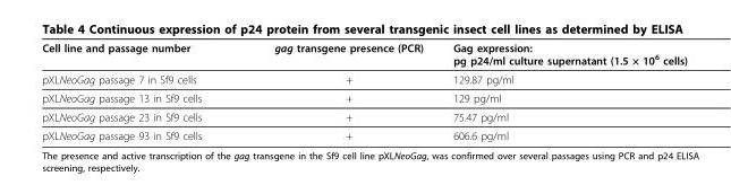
<table><thead><tr><td>Cell line and passage number</td><td>gag transgene presence (PCR)</td><td>Gag expression: pg p24/ml culture supernatant (1.5 × 10<sup>6</sup> cells)</td></tr></thead><tbody><tr><td>pXLNeoGag passage 7 in Sf9 cells</td><td>+</td><td>129.87 pg/ml</td></tr><tr><td>pXLNeoGag passage 13 in Sf9 cells</td><td>+</td><td>129 pg/ml</td></tr><tr><td>pXLNeoGag passage 23 in Sf9 cells</td><td>+</td><td>75.47 pg/ml</td></tr><tr><td>pXLNeoGag passage 93 in Sf9 cells</td><td>+</td><td>606.6 pg/ml</td></tr></tbody></table>